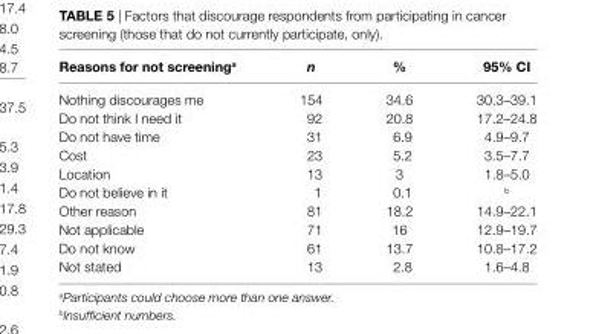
<table><thead><tr><td>reasons for not screening<sup>a</sup></td><td>n</td><td>%</td><td>95% ci</td></tr></thead><tbody><tr><td>Nothing discourages me</td><td>154</td><td>34.6</td><td>30.3–39.1</td></tr><tr><td>Do not think I need it</td><td>92</td><td>20.8</td><td>17.2–24.8</td></tr><tr><td>Do not have time</td><td>31</td><td>6.9</td><td>4.9–9.7</td></tr><tr><td>Cost</td><td>23</td><td>5.2</td><td>3.5–7.7</td></tr><tr><td>Location</td><td>13</td><td>3</td><td>1.8–5.0</td></tr><tr><td>Do not believe in it</td><td>1</td><td>0.1</td><td><sup>b</sup></td></tr><tr><td>Other reason</td><td>81</td><td>18.2</td><td>14.9–22.1</td></tr><tr><td>Not applicable</td><td>71</td><td>16</td><td>12.9–19.7</td></tr><tr><td>Do not know</td><td>61</td><td>13.7</td><td>10.8–17.2</td></tr><tr><td>Not stated</td><td>13</td><td>2.8</td><td>1.6–4.8</td></tr></tbody></table>